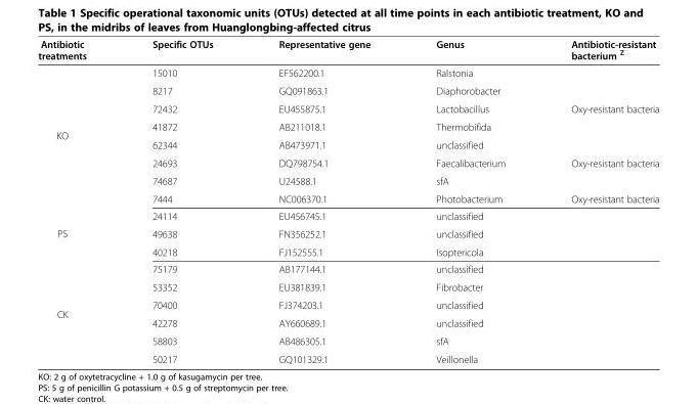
<table><thead><tr><td>Antibiotic treatments</td><td>Specific OTUs</td><td>Representative gene</td><td>Genus</td><td>Antibiotic-resistant bacterium <sup>Z</sup></td></tr></thead><tbody><tr><td rowspan="8">KO</td><td>15010</td><td>EF562200.1</td><td>Ralstonia</td><td></td></tr><tr><td>8217</td><td>GQ091863.1</td><td>Diaphorobacter</td><td></td></tr><tr><td>72432</td><td>EU455875.1</td><td>Lactobacillus</td><td>Oxy-resistant bacteria</td></tr><tr><td>41872</td><td>AB211018.1</td><td>Thermobifida</td><td></td></tr><tr><td>62344</td><td>AB473971.1</td><td>unclassified</td><td></td></tr><tr><td>24693</td><td>DQ798754.1</td><td>Faecalibacterium</td><td>Oxy-resistant bacteria</td></tr><tr><td>74687</td><td>U24588.1</td><td>sfA</td><td></td></tr><tr><td>7444</td><td>NC006370.1</td><td>Photobacterium</td><td>Oxy-resistant bacteria</td></tr><tr><td rowspan="3">PS</td><td>24114</td><td>EU456745.1</td><td>unclassified</td><td></td></tr><tr><td>49638</td><td>FN356252.1</td><td>unclassified</td><td></td></tr><tr><td>40218</td><td>FJ152555.1</td><td>Isoptericola</td><td></td></tr><tr><td rowspan="6">CK</td><td>75179</td><td>AB177144.1</td><td>unclassified</td><td></td></tr><tr><td>53352</td><td>EU381839.1</td><td>Fibrobacter</td><td></td></tr><tr><td>70400</td><td>FJ374203.1</td><td>unclassified</td><td></td></tr><tr><td>42278</td><td>AY660689.1</td><td>unclassified</td><td></td></tr><tr><td>58803</td><td>AB486305.1</td><td>sfA</td><td></td></tr><tr><td>50217</td><td>GQ101329.1</td><td>Veillonella</td><td></td></tr></tbody></table>